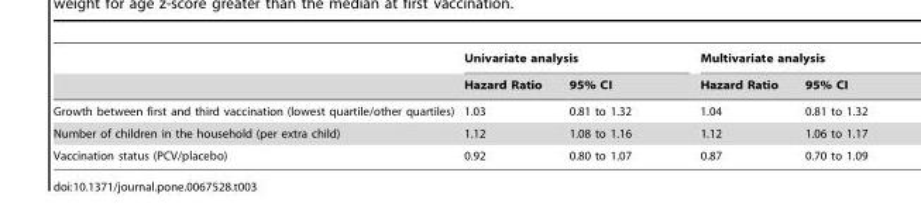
<table><thead><tr><td rowspan="2"></td><td colspan="2">Univariate analysis</td><td colspan="2">Multivariate analysis</td></tr><tr><td>Hazard Ratio</td><td>95% CI</td><td>Hazard Ratio</td><td>95% CI</td></tr></thead><tbody><tr><td>Growth between first and third vaccination (lowest quartile/other quartiles)</td><td>1.03</td><td>0.81 to 1.32</td><td>1.04</td><td>0.81 to 1.32</td></tr><tr><td>Number of children in the household (per extra child)</td><td>1.12</td><td>1.08 to 1.16</td><td>1.12</td><td>1.06 to 1.17</td></tr><tr><td>Vaccination status (PCV/placebo)</td><td>0.92</td><td>0.80 to 1.07</td><td>0.87</td><td>0.70 to 1.09</td></tr></tbody></table>